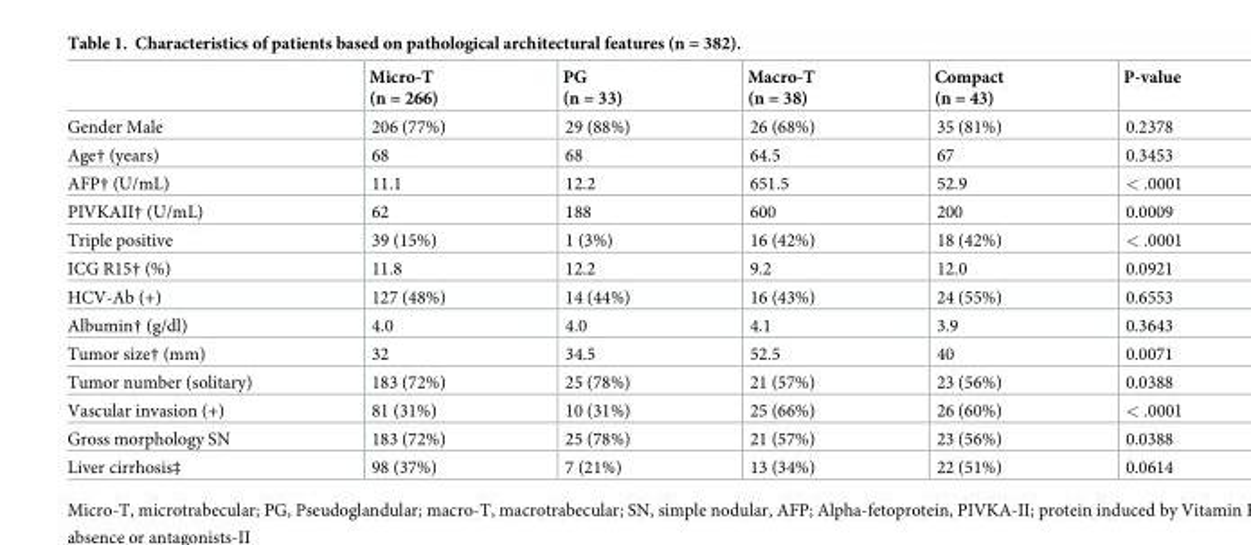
<table><thead><tr><td></td><td>Micro-T (n = 266)</td><td>PG (n = 33)</td><td>Macro-T (n = 38)</td><td>Compact (n = 43)</td><td>P-value</td></tr></thead><tbody><tr><td>Gender Male</td><td>206 (77%)</td><td>29 (88%)</td><td>26 (68%)</td><td>35 (81%)</td><td>0.2378</td></tr><tr><td>Age† (years)</td><td>68</td><td>68</td><td>64.5</td><td>67</td><td>0.3453</td></tr><tr><td>AFP† (U/mL)</td><td>11.1</td><td>12.2</td><td>651.5</td><td>52.9</td><td>&lt; .0001</td></tr><tr><td>PIVKAII† (U/mL)</td><td>62</td><td>188</td><td>600</td><td>200</td><td>0.0009</td></tr><tr><td>Triple positive</td><td>39 (15%)</td><td>1 (3%)</td><td>16 (42%)</td><td>18 (42%)</td><td>&lt; .0001</td></tr><tr><td>ICG R15† (%)</td><td>11.8</td><td>12.2</td><td>9.2</td><td>12.0</td><td>0.0921</td></tr><tr><td>HCV-Ab (+)</td><td>127 (48%)</td><td>14 (44%)</td><td>16 (43%)</td><td>24 (55%)</td><td>0.6553</td></tr><tr><td>Albumin† (g/dl)</td><td>4.0</td><td>4.0</td><td>4.1</td><td>3.9</td><td>0.3643</td></tr><tr><td>Tumor size† (mm)</td><td>32</td><td>34.5</td><td>52.5</td><td>40</td><td>0.0071</td></tr><tr><td>Tumor number (solitary)</td><td>183 (72%)</td><td>25 (78%)</td><td>21 (57%)</td><td>23 (56%)</td><td>0.0388</td></tr><tr><td>Vascular invasion (+)</td><td>81 (31%)</td><td>10 (31%)</td><td>25 (66%)</td><td>26 (60%)</td><td>&lt; .0001</td></tr><tr><td>Gross morphology SN</td><td>183 (72%)</td><td>25 (78%)</td><td>21 (57%)</td><td>23 (56%)</td><td>0.0388</td></tr><tr><td>Liver cirrhosis‡</td><td>98 (37%)</td><td>7 (21%)</td><td>13 (34%)</td><td>22 (51%)</td><td>0.0614</td></tr></tbody></table>